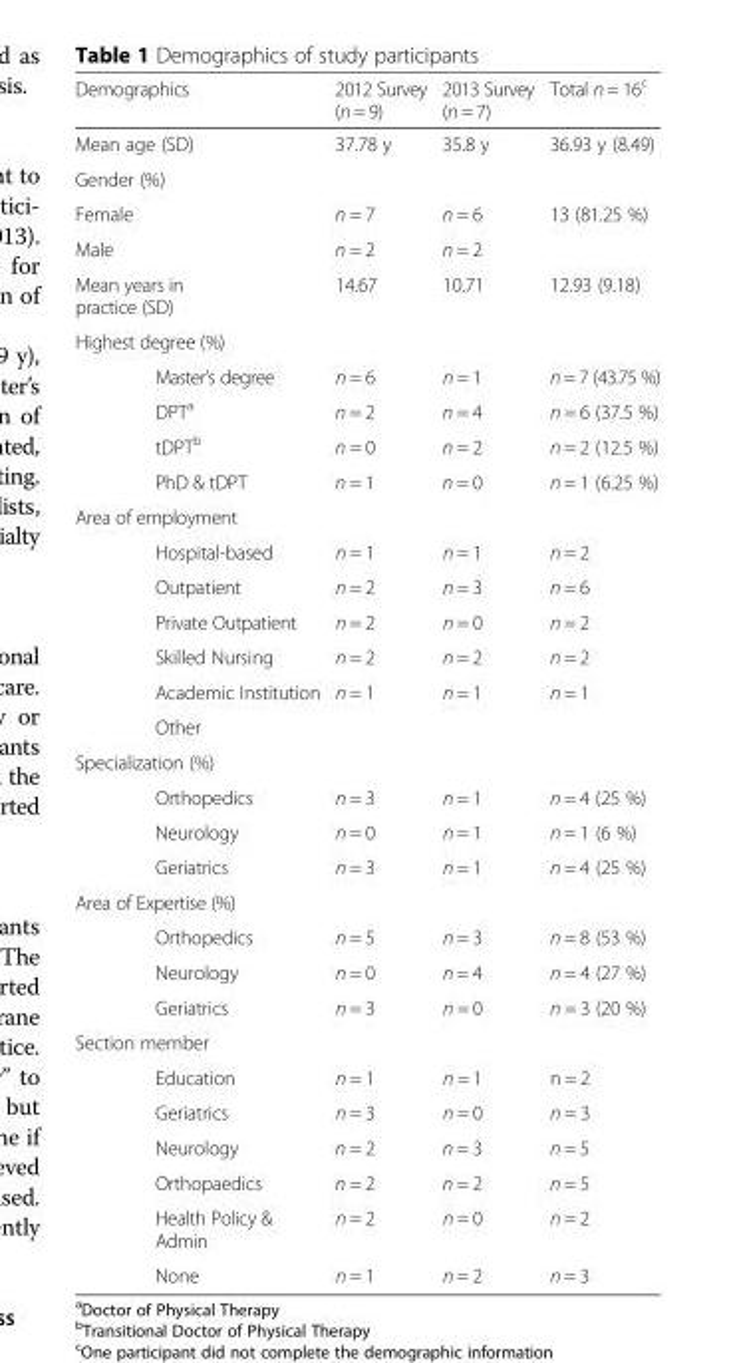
<table><thead><tr><td>Demographics</td><td>2012 Survey (n = 9)</td><td>2013 Survey (n = 7)</td><td>Total n = 16<sup>c</sup></td></tr></thead><tbody><tr><td>Mean age (SD)</td><td>37.78 y</td><td>35.8 y</td><td>36.93 y (8.49)</td></tr><tr><td colspan="4">Gender (%)</td></tr><tr><td>Female</td><td>n = 7</td><td>n = 6</td><td rowspan="2">13 (81.25 %)</td></tr><tr><td>Male</td><td>n = 2</td><td>n = 2</td></tr><tr><td>Mean years in practice (SD)</td><td>14.67</td><td>10.71</td><td>12.93 (9.18)</td></tr><tr><td colspan="4">Highest degree (%)</td></tr><tr><td>Master’s degree</td><td>n = 6</td><td>n = 1</td><td>n = 7 (43.75 %)</td></tr><tr><td>DPT<sup>a</sup></td><td>n = 2</td><td>n = 4</td><td>n = 6 (37.5 %)</td></tr><tr><td>tDPT<sup>b</sup></td><td>n = 0</td><td>n = 2</td><td>n = 2 (12.5 %)</td></tr><tr><td>PhD &amp; tDPT</td><td>n = 1</td><td>n = 0</td><td>n = 1 (6.25 %)</td></tr><tr><td colspan="4">Area of employment</td></tr><tr><td>Hospital-based</td><td>n = 1</td><td>n = 1</td><td>n = 2</td></tr><tr><td>Outpatient</td><td>n = 2</td><td>n = 3</td><td>n = 6</td></tr><tr><td>Private Outpatient</td><td>n = 2</td><td>n = 0</td><td>n = 2</td></tr><tr><td>Skilled Nursing</td><td>n = 2</td><td>n = 2</td><td>n = 2</td></tr><tr><td>Academic Institution</td><td rowspan="2">n = 1</td><td rowspan="2">n = 1</td><td rowspan="2">n = 1</td></tr><tr><td>Other</td></tr><tr><td colspan="4">Specialization (%)</td></tr><tr><td>Orthopedics</td><td>n = 3</td><td>n = 1</td><td>n = 4 (25 %)</td></tr><tr><td>Neurology</td><td>n = 0</td><td>n = 1</td><td>n = 1 (6 %)</td></tr><tr><td>Geriatrics</td><td>n = 3</td><td>n = 1</td><td>n = 4 (25 %)</td></tr><tr><td colspan="4">Area of Expertise (%)</td></tr><tr><td>Orthopedics</td><td>n = 5</td><td>n = 3</td><td>n = 8 (53 %)</td></tr><tr><td>Neurology</td><td>n = 0</td><td>n = 4</td><td>n = 4 (27 %)</td></tr><tr><td>Geriatrics</td><td>n = 3</td><td>n = 0</td><td>n = 3 (20 %)</td></tr><tr><td colspan="4">Section member</td></tr><tr><td>Education</td><td>n = 1</td><td>n = 1</td><td>n = 2</td></tr><tr><td>Geriatrics</td><td>n = 3</td><td>n = 0</td><td>n = 3</td></tr><tr><td>Neurology</td><td>n = 2</td><td>n = 3</td><td>n = 5</td></tr><tr><td>Orthopaedics</td><td>n = 2</td><td>n = 2</td><td>n = 5</td></tr><tr><td>Health Policy &amp; Admin</td><td>n = 2</td><td>n = 0</td><td>n = 2</td></tr><tr><td>None</td><td>n = 1</td><td>n = 2</td><td>n = 3</td></tr></tbody></table>